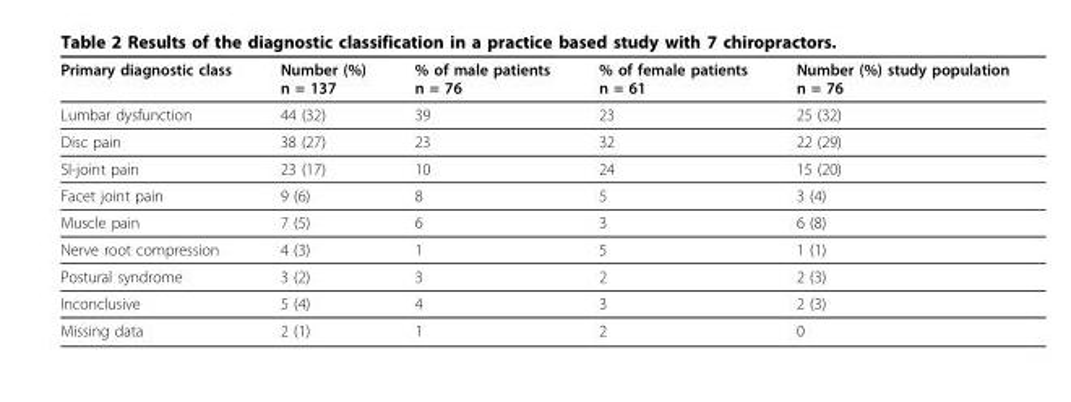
<table><thead><tr><td>Primary diagnostic class</td><td>Number (%) n = 137</td><td>% of male patients n = 76</td><td>% of female patients n = 61</td><td>Number (%) study population n = 76</td></tr></thead><tbody><tr><td>Lumbar dysfunction</td><td>44 (32)</td><td>39</td><td>23</td><td>25 (32)</td></tr><tr><td>Disc pain</td><td>38 (27)</td><td>23</td><td>32</td><td>22 (29)</td></tr><tr><td>SI-joint pain</td><td>23 (17)</td><td>10</td><td>24</td><td>15 (20)</td></tr><tr><td>Facet joint pain</td><td>9 (6)</td><td>8</td><td>5</td><td>3 (4)</td></tr><tr><td>Muscle pain</td><td>7 (5)</td><td>6</td><td>3</td><td>6 (8)</td></tr><tr><td>Nerve root compression</td><td>4 (3)</td><td>1</td><td>5</td><td>1 (1)</td></tr><tr><td>Postural syndrome</td><td>3 (2)</td><td>3</td><td>2</td><td>2 (3)</td></tr><tr><td>Inconclusive</td><td>5 (4)</td><td>4</td><td>3</td><td>2 (3)</td></tr><tr><td>Missing data</td><td>2 (1)</td><td>1</td><td>2</td><td>0</td></tr></tbody></table>